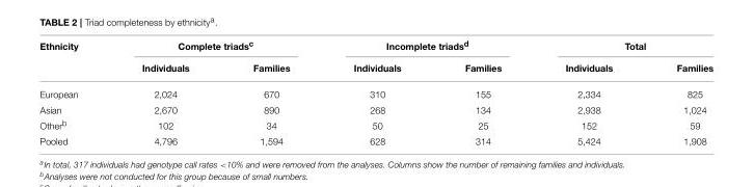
<table><thead><tr><td rowspan="2">Ethnicity</td><td colspan="2">Complete triads<sup>c</sup></td><td colspan="2">Incomplete triads<sup>d</sup></td><td colspan="2">Total</td></tr><tr><td>Individuals</td><td>Families</td><td>Individuals</td><td>Families</td><td>Individuals</td><td>Families</td></tr></thead><tbody><tr><td>European</td><td>2,024</td><td>670</td><td>310</td><td>155</td><td>2,334</td><td>825</td></tr><tr><td>Asian</td><td>2,670</td><td>890</td><td>268</td><td>134</td><td>2,938</td><td>1,024</td></tr><tr><td>Other<sup>b</sup></td><td>102</td><td>34</td><td>50</td><td>25</td><td>152</td><td>59</td></tr><tr><td>Pooled</td><td>4,796</td><td>1,594</td><td>628</td><td>314</td><td>5,424</td><td>1,908</td></tr></tbody></table>